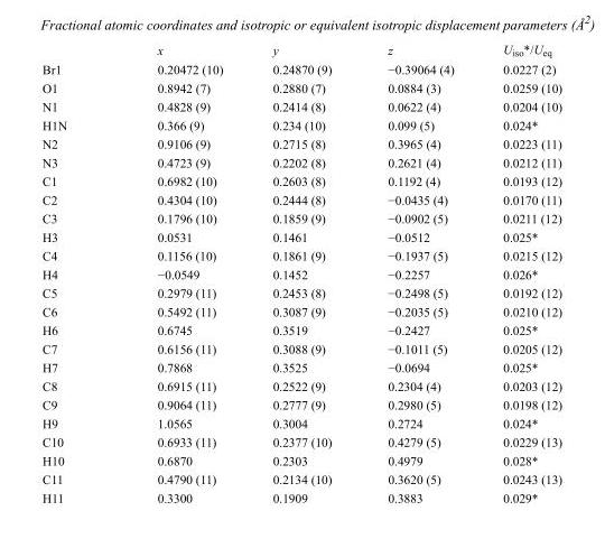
<table><thead><tr><td></td><td>x</td><td>y</td><td>z</td><td>U<sub>iso</sub>*/U<sub>eq</sub></td></tr></thead><tbody><tr><td>Br1</td><td>0.20472 (10)</td><td>0.24870 (9)</td><td>−0.39064 (4)</td><td>0.0227 (2)</td></tr><tr><td>O1</td><td>0.8942 (7)</td><td>0.2880 (7)</td><td>0.0884 (3)</td><td>0.0259 (10)</td></tr><tr><td>N1</td><td>0.4828 (9)</td><td>0.2414 (8)</td><td>0.0622 (4)</td><td>0.0204 (10)</td></tr><tr><td>H1N</td><td>0.366 (9)</td><td>0.234 (10)</td><td>0.099 (5)</td><td>0.024*</td></tr><tr><td>N2</td><td>0.9106 (9)</td><td>0.2715 (8)</td><td>0.3965 (4)</td><td>0.0223 (11)</td></tr><tr><td>N3</td><td>0.4723 (9)</td><td>0.2202 (8)</td><td>0.2621 (4)</td><td>0.0212 (11)</td></tr><tr><td>C1</td><td>0.6982 (10)</td><td>0.2603 (8)</td><td>0.1192 (4)</td><td>0.0193 (12)</td></tr><tr><td>C2</td><td>0.4304 (10)</td><td>0.2444 (8)</td><td>−0.0435 (4)</td><td>0.0170 (11)</td></tr><tr><td>C3</td><td>0.1796 (10)</td><td>0.1859 (9)</td><td>−0.0902 (5)</td><td>0.0211 (12)</td></tr><tr><td>H3</td><td>0.0531</td><td>0.1461</td><td>−0.0512</td><td>0.025*</td></tr><tr><td>C4</td><td>0.1156 (10)</td><td>0.1861 (9)</td><td>−0.1937 (5)</td><td>0.0215 (12)</td></tr><tr><td>H4</td><td>−0.0549</td><td>0.1452</td><td>−0.2257</td><td>0.026*</td></tr><tr><td>C5</td><td>0.2979 (11)</td><td>0.2453 (8)</td><td>−0.2498 (5)</td><td>0.0192 (12)</td></tr><tr><td>C6</td><td>0.5492 (11)</td><td>0.3087 (9)</td><td>−0.2035 (5)</td><td>0.0210 (12)</td></tr><tr><td>H6</td><td>0.6745</td><td>0.3519</td><td>−0.2427</td><td>0.025*</td></tr><tr><td>C7</td><td>0.6156 (11)</td><td>0.3088 (9)</td><td>−0.1011 (5)</td><td>0.0205 (12)</td></tr><tr><td>H7</td><td>0.7868</td><td>0.3525</td><td>−0.0694</td><td>0.025*</td></tr><tr><td>C8</td><td>0.6915 (11)</td><td>0.2522 (9)</td><td>0.2304 (4)</td><td>0.0203 (12)</td></tr><tr><td>C9</td><td>0.9064 (11)</td><td>0.2777 (9)</td><td>0.2980 (5)</td><td>0.0198 (12)</td></tr><tr><td>H9</td><td>1.0565</td><td>0.3004</td><td>0.2724</td><td>0.024*</td></tr><tr><td>C10</td><td>0.6933 (11)</td><td>0.2377 (10)</td><td>0.4279 (5)</td><td>0.0229 (13)</td></tr><tr><td>H10</td><td>0.6870</td><td>0.2303</td><td>0.4979</td><td>0.028*</td></tr><tr><td>C11</td><td>0.4790 (11)</td><td>0.2134 (10)</td><td>0.3620 (5)</td><td>0.0243 (13)</td></tr><tr><td>H11</td><td>0.3300</td><td>0.1909</td><td>0.3883</td><td>0.029*</td></tr></tbody></table>